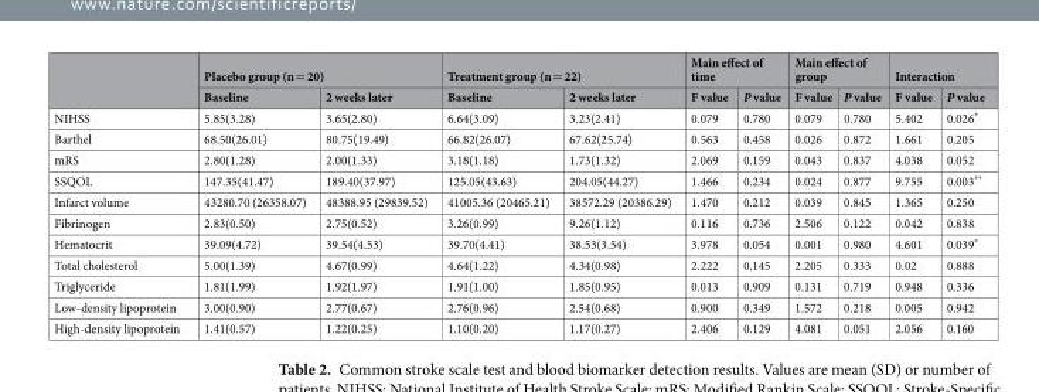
<table><thead><tr><td rowspan="2"></td><td colspan="2">Placebo group (n = 20)</td><td colspan="2">Treatment group (n = 22)</td><td colspan="2">Main effect of time</td><td colspan="2">Main effect of group</td><td colspan="2">Interaction</td></tr><tr><td>Baseline</td><td>2 weeks later</td><td>Baseline</td><td>2 weeks later</td><td>F value</td><td>P value</td><td>F value</td><td>P value</td><td>F value</td><td>P value</td></tr></thead><tbody><tr><td>NIHSS</td><td>5.85(3.28)</td><td>3.65(2.80)</td><td>6.64(3.09)</td><td>3.23(2.41)</td><td>0.079</td><td>0.780</td><td>0.079</td><td>0.780</td><td>5.402</td><td>0.026*</td></tr><tr><td>Barthel</td><td>68.50(26.01)</td><td>80.75(19.49)</td><td>66.82(26.07)</td><td>67.62(25.74)</td><td>0.563</td><td>0.458</td><td>0.026</td><td>0.872</td><td>1.661</td><td>0.205</td></tr><tr><td>mRS</td><td>2.80(1.28)</td><td>2.00(1.33)</td><td>3.18(1.18)</td><td>1.73(1.32)</td><td>2.069</td><td>0.159</td><td>0.043</td><td>0.837</td><td>4.038</td><td>0.052</td></tr><tr><td>SSQOL</td><td>147.35(41.47)</td><td>189.40(37.97)</td><td>125.05(43.63)</td><td>204.05(44.27)</td><td>1.466</td><td>0.234</td><td>0.024</td><td>0.877</td><td>9.755</td><td>0.003**</td></tr><tr><td>Infarct volume</td><td>43280.70 (26358.07)</td><td>48388.95 (29839.52)</td><td>41005.36 (20465.21)</td><td>38572.29 (20386.29)</td><td>1.470</td><td>0.212</td><td>0.039</td><td>0.845</td><td>1.365</td><td>0.250</td></tr><tr><td>Fibrinogen</td><td>2.83(0.50)</td><td>2.75(0.52)</td><td>3.26(0.99)</td><td>9.26(1.12)</td><td>0.116</td><td>0.736</td><td>2.506</td><td>0.122</td><td>0.042</td><td>0.838</td></tr><tr><td>Hematocrit</td><td>39.09(4.72)</td><td>39.54(4.53)</td><td>39.70(4.41)</td><td>38.53(3.54)</td><td>3.978</td><td>0.054</td><td>0.001</td><td>0.980</td><td>4.601</td><td>0.039*</td></tr><tr><td>Total cholesterol</td><td>5.00(1.39)</td><td>4.67(0.99)</td><td>4.64(1.22)</td><td>4.34(0.98)</td><td>2.222</td><td>0.145</td><td>2.205</td><td>0.333</td><td>0.02</td><td>0.888</td></tr><tr><td>Triglyceride</td><td>1.81(1.99)</td><td>1.92(1.97)</td><td>1.91(1.00)</td><td>1.85(0.95)</td><td>0.013</td><td>0.909</td><td>0.131</td><td>0.719</td><td>0.948</td><td>0.336</td></tr><tr><td>Low-density lipoprotein</td><td>3.00(0.90)</td><td>2.77(0.67)</td><td>2.76(0.96)</td><td>2.54(0.68)</td><td>0.900</td><td>0.349</td><td>1.572</td><td>0.218</td><td>0.005</td><td>0.942</td></tr><tr><td>High-density lipoprotein</td><td>1.41(0.57)</td><td>1.22(0.25)</td><td>1.10(0.20)</td><td>1.17(0.27)</td><td>2.406</td><td>0.129</td><td>4.081</td><td>0.051</td><td>2.056</td><td>0.160</td></tr></tbody></table>